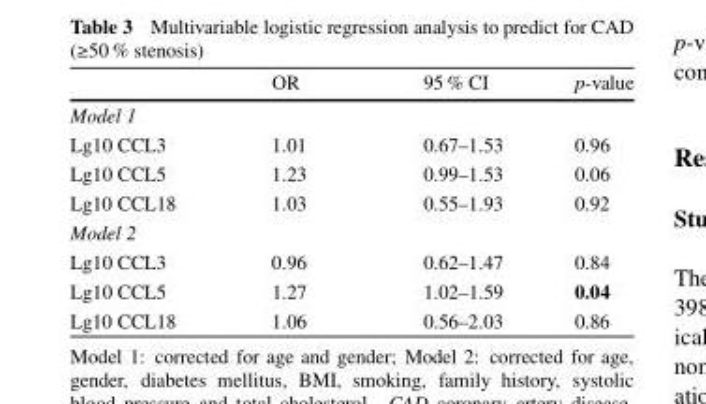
<table><thead><tr><td></td><td>OR</td><td>95 % CI</td><td>p-value</td></tr></thead><tbody><tr><td colspan="4">Model 1</td></tr><tr><td>Lg10 CCL3</td><td>1.01</td><td>0.67–1.53</td><td>0.96</td></tr><tr><td>Lg10 CCL5</td><td>1.23</td><td>0.99–1.53</td><td>0.06</td></tr><tr><td>Lg10 CCL18</td><td>1.03</td><td>0.55–1.93</td><td>0.92</td></tr><tr><td colspan="4">Model 2</td></tr><tr><td>Lg10 CCL3</td><td>0.96</td><td>0.62–1.47</td><td>0.84</td></tr><tr><td>Lg10 CCL5</td><td>1.27</td><td>1.02–1.59</td><td>0.04</td></tr><tr><td>Lg10 CCL18</td><td>1.06</td><td>0.56–2.03</td><td>0.86</td></tr></tbody></table>